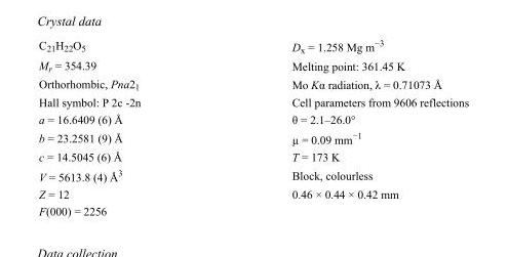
<table><tbody><tr><td>C<sub>21</sub>H<sub>22</sub>O<sub>5</sub></td><td>D<sub>x</sub> = 1.258 Mg m<sup>−3</sup></td></tr><tr><td>M<sub>r</sub> = 354.39</td><td>Melting point: 361.45 K</td></tr><tr><td>Orthorhombic, Pna2<sub>1</sub></td><td>Mo Kα radiation, λ = 0.71073 Å</td></tr><tr><td>Hall symbol: P 2c -2n</td><td>Cell parameters from 9606 reflections</td></tr><tr><td>a = 16.6409 (6) Å</td><td>θ = 2.1–26.0°</td></tr><tr><td>b = 23.2581 (9) Å</td><td>µ = 0.09 mm<sup>−1</sup></td></tr><tr><td>c = 14.5045 (6) Å</td><td>T = 173 K</td></tr><tr><td>V = 5613.8 (4) Å<sup>3</sup></td><td>Block, colourless</td></tr><tr><td>Z = 12</td><td>0.46 × 0.44 × 0.42 mm</td></tr><tr><td>F(000) = 2256</td><td></td></tr></tbody></table>